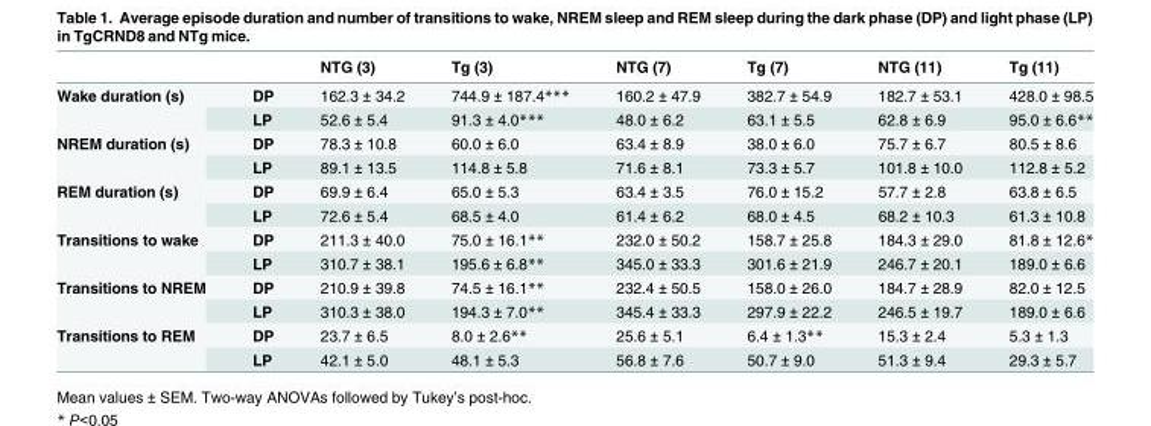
<table><thead><tr><td></td><td></td><td>NTG (3)</td><td>Tg (3)</td><td>NTG (7)</td><td>Tg (7)</td><td>NTG (11)</td><td>Tg (11)</td></tr></thead><tbody><tr><td rowspan="2">Wake duration (s)</td><td>DP</td><td>162.3 ± 34.2</td><td>744.9 ± 187.4***</td><td>160.2 ± 47.9</td><td>382.7 ± 54.9</td><td>182.7 ± 53.1</td><td>428.0 ± 98.5</td></tr><tr><td>LP</td><td>52.6 ± 5.4</td><td>91.3 ± 4.0***</td><td>48.0 ± 6.2</td><td>63.1 ± 5.5</td><td>62.8 ± 6.9</td><td>95.0 ± 6.6**</td></tr><tr><td rowspan="2">NREM duration (s)</td><td>DP</td><td>78.3 ± 10.8</td><td>60.0 ± 6.0</td><td>63.4 ± 8.9</td><td>38.0 ± 6.0</td><td>75.7 ± 6.7</td><td>80.5 ± 8.6</td></tr><tr><td>LP</td><td>89.1 ± 13.5</td><td>114.8 ± 5.8</td><td>71.6 ± 8.1</td><td>73.3 ± 5.7</td><td>101.8 ± 10.0</td><td>112.8 ± 5.2</td></tr><tr><td rowspan="2">REM duration (s)</td><td>DP</td><td>69.9 ± 6.4</td><td>65.0 ± 5.3</td><td>63.4 ± 3.5</td><td>76.0 ± 15.2</td><td>57.7 ± 2.8</td><td>63.8 ± 6.5</td></tr><tr><td>LP</td><td>72.6 ± 5.4</td><td>68.5 ± 4.0</td><td>61.4 ± 6.2</td><td>68.0 ± 4.5</td><td>68.2 ± 10.3</td><td>61.3 ± 10.8</td></tr><tr><td rowspan="2">Transitions to wake</td><td>DP</td><td>211.3 ± 40.0</td><td>75.0 ± 16.1**</td><td>232.0 ± 50.2</td><td>158.7 ± 25.8</td><td>184.3 ± 29.0</td><td>81.8 ± 12.6*</td></tr><tr><td>LP</td><td>310.7 ± 38.1</td><td>195.6 ± 6.8**</td><td>345.0 ± 33.3</td><td>301.6 ± 21.9</td><td>246.7 ± 20.1</td><td>189.0 ± 6.6</td></tr><tr><td rowspan="2">Transitions to NREM</td><td>DP</td><td>210.9 ± 39.8</td><td>74.5 ± 16.1**</td><td>232.4 ± 50.5</td><td>158.0 ± 26.0</td><td>184.7 ± 28.9</td><td>82.0 ± 12.5</td></tr><tr><td>LP</td><td>310.3 ± 38.0</td><td>194.3 ± 7.0**</td><td>345.4 ± 33.3</td><td>297.9 ± 22.2</td><td>246.5 ± 19.7</td><td>189.0 ± 6.6</td></tr><tr><td rowspan="2">Transitions to REM</td><td>DP</td><td>23.7 ± 6.5</td><td>8.0 ± 2.6**</td><td>25.6 ± 5.1</td><td>6.4 ± 1.3**</td><td>15.3 ± 2.4</td><td>5.3 ± 1.3</td></tr><tr><td>LP</td><td>42.1 ± 5.0</td><td>48.1 ± 5.3</td><td>56.8 ± 7.6</td><td>50.7 ± 9.0</td><td>51.3 ± 9.4</td><td>29.3 ± 5.7</td></tr></tbody></table>